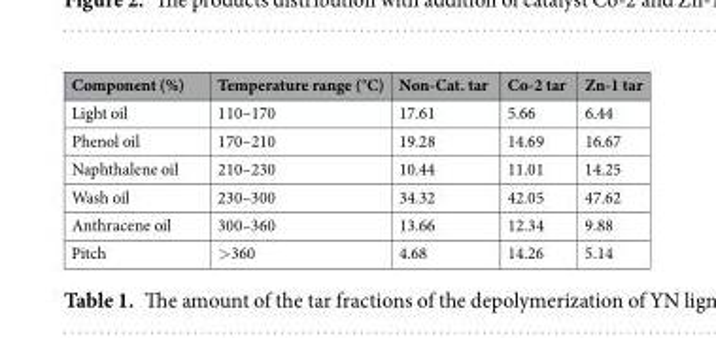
<table><thead><tr><td>Component (%)</td><td>Temperature range (°C)</td><td>Non-Cat. tar</td><td>Co-2 tar</td><td>Zn-1 tar</td></tr></thead><tbody><tr><td>Light oil</td><td>110–170</td><td>17.61</td><td>5.66</td><td>6.44</td></tr><tr><td>Phenol oil</td><td>170–210</td><td>19.28</td><td>14.69</td><td>16.67</td></tr><tr><td>Naphthalene oil</td><td>210–230</td><td>10.44</td><td>11.01</td><td>14.25</td></tr><tr><td>Wash oil</td><td>230–300</td><td>34.32</td><td>42.05</td><td>47.62</td></tr><tr><td>Anthracene oil</td><td>300–360</td><td>13.66</td><td>12.34</td><td>9.88</td></tr><tr><td>Pitch</td><td>&gt;360</td><td>4.68</td><td>14.26</td><td>5.14</td></tr></tbody></table>